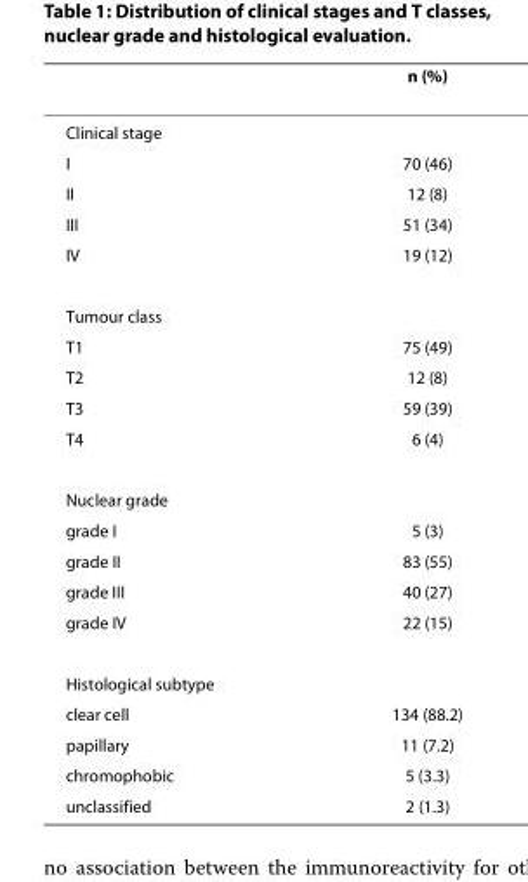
<table><thead><tr><td></td><td>n (%)</td></tr></thead><tbody><tr><td colspan="2">Clinical stage</td></tr><tr><td>I</td><td>70 (46)</td></tr><tr><td>II</td><td>12 (8)</td></tr><tr><td>III</td><td>51 (34)</td></tr><tr><td>IV</td><td>19 (12)</td></tr><tr><td colspan="2">Tumour class</td></tr><tr><td>T1</td><td>75 (49)</td></tr><tr><td>T2</td><td>12 (8)</td></tr><tr><td>T3</td><td>59 (39)</td></tr><tr><td>T4</td><td>6 (4)</td></tr><tr><td colspan="2">Nuclear grade</td></tr><tr><td>grade I</td><td>5 (3)</td></tr><tr><td>grade II</td><td>83 (55)</td></tr><tr><td>grade III</td><td>40 (27)</td></tr><tr><td>grade IV</td><td>22 (15)</td></tr><tr><td colspan="2">Histological subtype</td></tr><tr><td>clear cell</td><td>134 (88.2)</td></tr><tr><td>papillary</td><td>11 (7.2)</td></tr><tr><td>chromophobic</td><td>5 (3.3)</td></tr><tr><td>unclassified</td><td>2 (1.3)</td></tr></tbody></table>